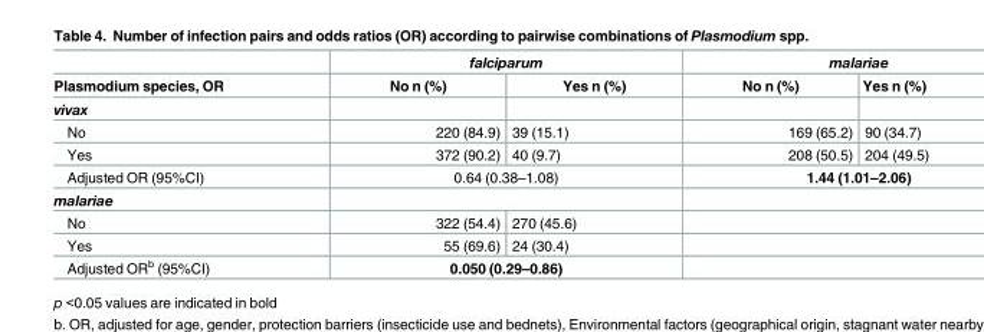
<table><thead><tr><td rowspan="2">Plasmodium species, OR</td><td colspan="2">falciparum</td><td colspan="2">malariae</td></tr><tr><td>No n (%)</td><td>Yes n (%)</td><td>No n (%)</td><td>Yes n (%)</td></tr></thead><tbody><tr><td colspan="5">vivax</td></tr><tr><td>No</td><td>220 (84.9)</td><td>39 (15.1)</td><td>169 (65.2)</td><td>90 (34.7)</td></tr><tr><td>Yes</td><td>372 (90.2)</td><td>40 (9.7)</td><td>208 (50.5)</td><td>204 (49.5)</td></tr><tr><td>Adjusted OR (95%CI)</td><td colspan="2">0.64 (0.38–1.08)</td><td colspan="2">1.44 (1.01–2.06)</td></tr><tr><td colspan="5">malariae</td></tr><tr><td>No</td><td>322 (54.4)</td><td>270 (45.6)</td><td colspan="2"></td></tr><tr><td>Yes</td><td>55 (69.6)</td><td>24 (30.4)</td><td colspan="2"></td></tr><tr><td>Adjusted OR<sup>b</sup> (95%CI)</td><td colspan="2">0.050 (0.29–0.86)</td><td colspan="2"></td></tr></tbody></table>